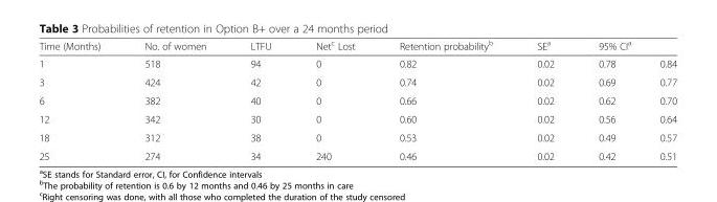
<table><thead><tr><td rowspan="2">Time (Months) 1</td><td rowspan="2">No. of women 518</td><td rowspan="2">LTFU 94</td><td rowspan="2">Net<sup>c</sup> Lost 0</td><td rowspan="2">Retention probability<sup>b</sup> 0.82</td><td rowspan="2">SE<sup>a</sup> 0.02</td><td colspan="2">95% CI<sup>a</sup></td></tr><tr><td>0.78</td><td>0.84</td></tr></thead><tbody><tr><td>3</td><td>424</td><td>42</td><td>0</td><td>0.74</td><td>0.02</td><td>0.69</td><td>0.77</td></tr><tr><td>6</td><td>382</td><td>40</td><td>0</td><td>0.66</td><td>0.02</td><td>0.62</td><td>0.70</td></tr><tr><td>12</td><td>342</td><td>30</td><td>0</td><td>0.60</td><td>0.02</td><td>0.56</td><td>0.64</td></tr><tr><td>18</td><td>312</td><td>38</td><td>0</td><td>0.53</td><td>0.02</td><td>0.49</td><td>0.57</td></tr><tr><td>25</td><td>274</td><td>34</td><td>240</td><td>0.46</td><td>0.02</td><td>0.42</td><td>0.51</td></tr></tbody></table>